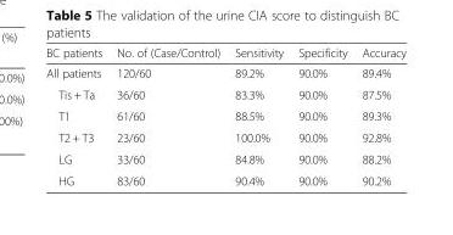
<table><thead><tr><td>BC patients</td><td>No. of (Case/Control)</td><td>Sensitivity</td><td>Specificity</td><td>Accuracy</td></tr></thead><tbody><tr><td>All patients</td><td>120/60</td><td>89.2%</td><td>90.0%</td><td>89.4%</td></tr><tr><td>Tis + Ta</td><td>36/60</td><td>83.3%</td><td>90.0%</td><td>87.5%</td></tr><tr><td>T1</td><td>61/60</td><td>88.5%</td><td>90.0%</td><td>89.3%</td></tr><tr><td>T2 + T3</td><td>23/60</td><td>100.0%</td><td>90.0%</td><td>92.8%</td></tr><tr><td>LG</td><td>33/60</td><td>84.8%</td><td>90.0%</td><td>88.2%</td></tr><tr><td>HG</td><td>83/60</td><td>90.4%</td><td>90.0%</td><td>90.2%</td></tr></tbody></table>